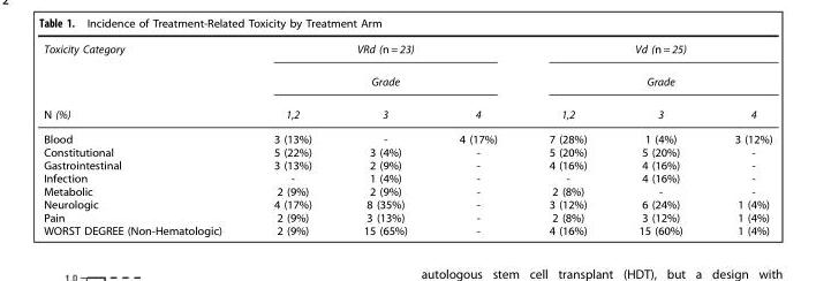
<table><thead><tr><td rowspan="3">Toxicity Category N (%)</td><td rowspan="2" colspan="3">VRd (n = 23) Grade</td><td rowspan="2" colspan="3">Vd (n = 25) Grade</td></tr><tr></tr><tr><td>1,2</td><td>3</td><td>4</td><td>1,2</td><td>3</td><td>4</td></tr></thead><tbody><tr><td>Blood</td><td>3 (13%)</td><td>-</td><td>4 (17%)</td><td>7 (28%)</td><td>1 (4%)</td><td>3 (12%)</td></tr><tr><td>Constitutional</td><td>5 (22%)</td><td>3 (4%)</td><td>-</td><td>5 (20%)</td><td>5 (20%)</td><td>-</td></tr><tr><td>Gastrointestinal</td><td>3 (13%)</td><td>2 (9%)</td><td>-</td><td>4 (16%)</td><td>4 (16%)</td><td>-</td></tr><tr><td>Infection</td><td>-</td><td>1 (4%)</td><td>-</td><td>-</td><td>4 (16%)</td><td>-</td></tr><tr><td>Metabolic</td><td>2 (9%)</td><td>2 (9%)</td><td>-</td><td>2 (8%)</td><td>-</td><td>-</td></tr><tr><td>Neurologic</td><td>4 (17%)</td><td>8 (35%)</td><td>-</td><td>3 (12%)</td><td>6 (24%)</td><td>1 (4%)</td></tr><tr><td>Pain</td><td>2 (9%)</td><td>3 (13%)</td><td>-</td><td>2 (8%)</td><td>3 (12%)</td><td>1 (4%)</td></tr><tr><td>WORST DEGREE (Non-Hematologic)</td><td>2 (9%)</td><td>15 (65%)</td><td>-</td><td>4 (16%)</td><td>15 (60%)</td><td>1 (4%)</td></tr></tbody></table>